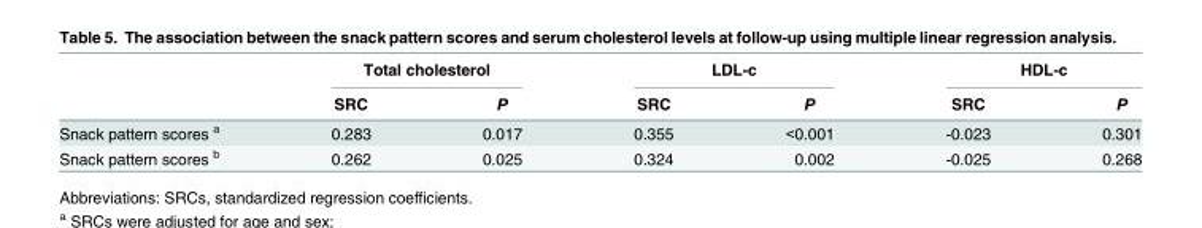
<table><thead><tr><td rowspan="2"></td><td colspan="2">Total cholesterol</td><td colspan="2">LDL-c</td><td colspan="2">HDL-c</td></tr><tr><td>SRC</td><td>P</td><td>SRC</td><td>P</td><td>SRC</td><td>P</td></tr></thead><tbody><tr><td>Snack pattern scores <sup>a</sup></td><td>0.283</td><td>0.017</td><td>0.355</td><td>&lt;0.001</td><td>-0.023</td><td>0.301</td></tr><tr><td>Snack pattern scores <sup>b</sup></td><td>0.262</td><td>0.025</td><td>0.324</td><td>0.002</td><td>-0.025</td><td>0.268</td></tr></tbody></table>